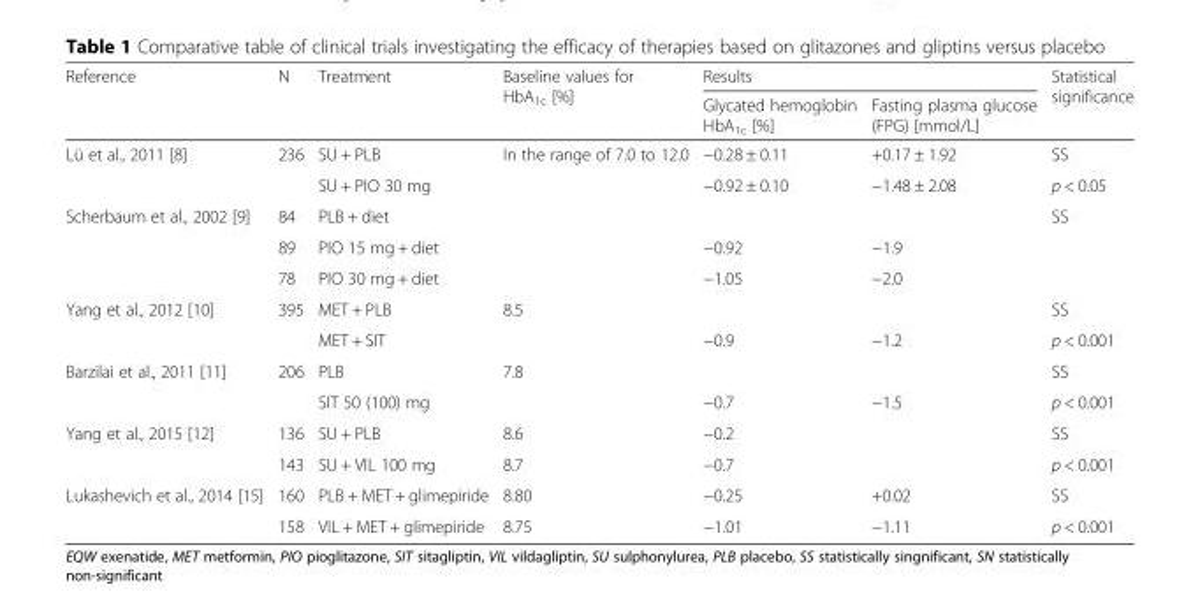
<table><thead><tr><td rowspan="2">Reference</td><td rowspan="2">N</td><td rowspan="2">Treatment</td><td rowspan="2">Baseline values for HbA<sub>1c</sub> [%]</td><td colspan="2">Results</td><td rowspan="2">Statistical significance</td></tr><tr><td>Glycated hemoglobin HbA<sub>1c</sub> [%]</td><td>Fasting plasma glucose (FPG) [mmol/L]</td></tr></thead><tbody><tr><td rowspan="2">Lü et al., 2011 [8]</td><td rowspan="2">236</td><td>SU + PLB</td><td rowspan="2">In the range of 7.0 to 12.0</td><td>−0.28 ± 0.11</td><td>+0.17 ± 1.92</td><td>SS</td></tr><tr><td>SU + PIO 30 mg</td><td>−0.92 ± 0.10</td><td>−1.48 ± 2.08</td><td>p &lt; 0.05</td></tr><tr><td rowspan="3">Scherbaum et al., 2002 [9]</td><td>84</td><td>PLB + diet</td><td rowspan="3"></td><td></td><td></td><td rowspan="3">SS</td></tr><tr><td>89</td><td>PIO 15 mg + diet</td><td>−0.92</td><td>−1.9</td></tr><tr><td>78</td><td>PIO 30 mg + diet</td><td>−1.05</td><td>−2.0</td></tr><tr><td rowspan="2">Yang et al., 2012 [10]</td><td rowspan="2">395</td><td>MET + PLB</td><td rowspan="2">8.5</td><td></td><td></td><td>SS</td></tr><tr><td>MET + SIT</td><td>−0.9</td><td>−1.2</td><td>p &lt; 0.001</td></tr><tr><td rowspan="2">Barzilai et al., 2011 [11]</td><td rowspan="2">206</td><td>PLB</td><td rowspan="2">7.8</td><td></td><td></td><td>SS</td></tr><tr><td>SIT 50 (100) mg</td><td>−0.7</td><td>−1.5</td><td>p &lt; 0.001</td></tr><tr><td rowspan="2">Yang et al., 2015 [12]</td><td>136</td><td>SU + PLB</td><td>8.6</td><td>−0.2</td><td rowspan="2"></td><td>SS</td></tr><tr><td>143</td><td>SU + VIL 100 mg</td><td>8.7</td><td>−0.7</td><td>p &lt; 0.001</td></tr><tr><td rowspan="2">Lukashevich et al., 2014 [15]</td><td>160</td><td>PLB + MET + glimepiride</td><td>8.80</td><td>−0.25</td><td>+0.02</td><td>SS</td></tr><tr><td>158</td><td>VIL + MET + glimepiride</td><td>8.75</td><td>−1.01</td><td>−1.11</td><td>p &lt; 0.001</td></tr></tbody></table>